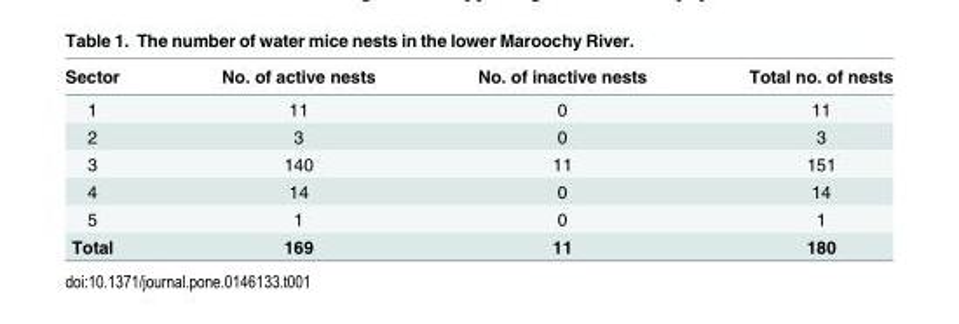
<table><thead><tr><td>Sector</td><td>No. of active nests</td><td>No. of inactive nests</td><td>Total no. of nests</td></tr></thead><tbody><tr><td>1</td><td>11</td><td>0</td><td>11</td></tr><tr><td>2</td><td>3</td><td>0</td><td>3</td></tr><tr><td>3</td><td>140</td><td>11</td><td>151</td></tr><tr><td>4</td><td>14</td><td>0</td><td>14</td></tr><tr><td>5</td><td>1</td><td>0</td><td>1</td></tr><tr><td>Total</td><td>169</td><td>11</td><td>180</td></tr></tbody></table>